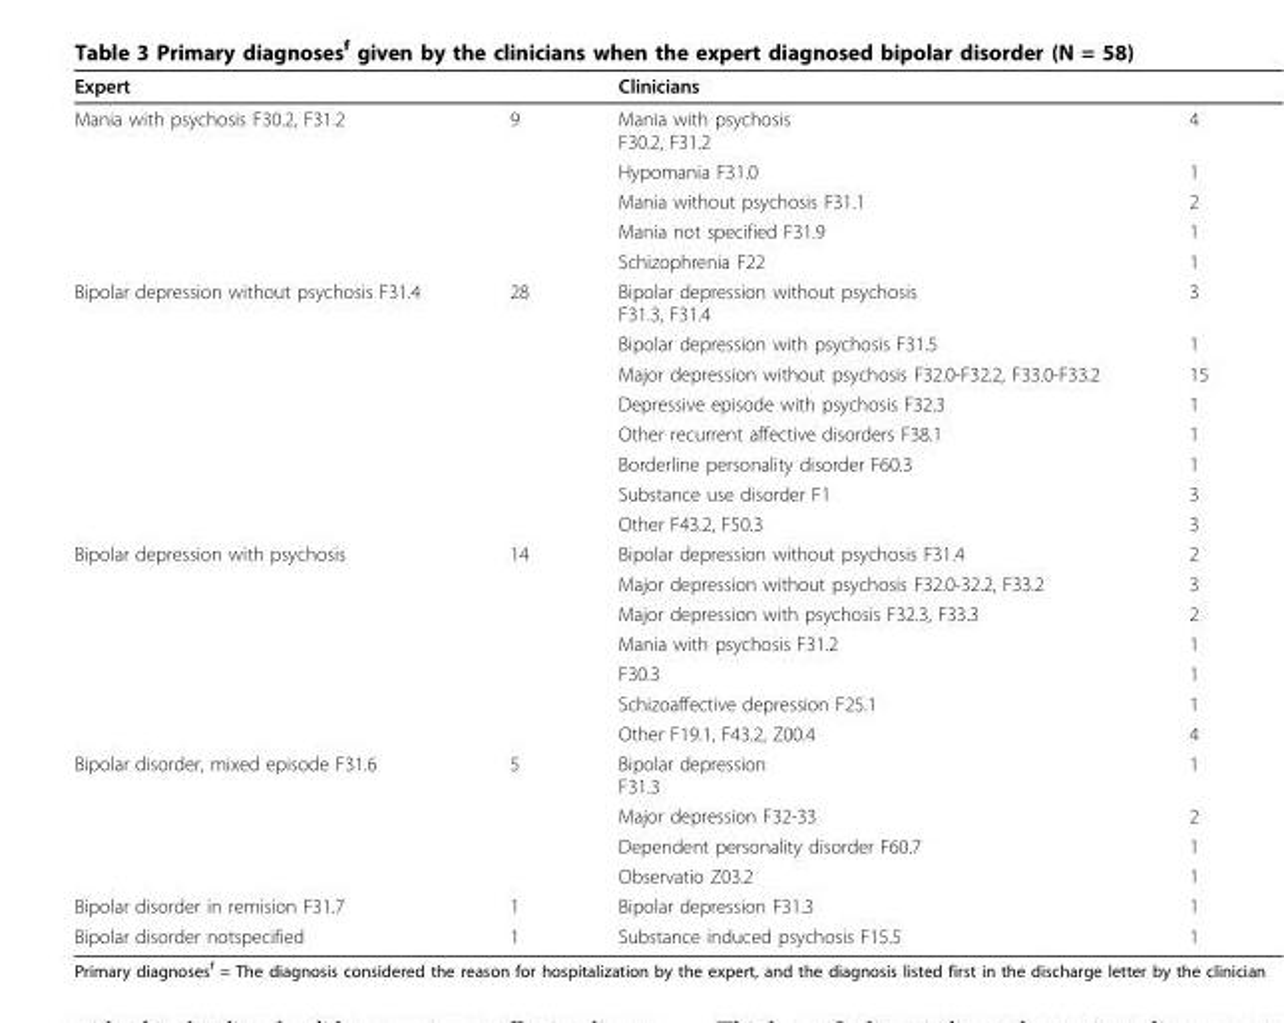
<table><thead><tr><td colspan="2">Expert</td><td colspan="2">Clinicians</td></tr><tr><td>Mania with psychosis F30.2, F31.2</td><td>9</td><td>Mania with psychosis F30.2, F31.2</td><td>4</td></tr></thead><tbody><tr><td></td><td></td><td>Hypomania F31.0</td><td>1</td></tr><tr><td></td><td></td><td>Mania without psychosis F31.1</td><td>2</td></tr><tr><td></td><td></td><td>Mania not specified F31.9</td><td>1</td></tr><tr><td></td><td></td><td>Schizophrenia F22</td><td>1</td></tr><tr><td rowspan="8">Bipolar depression without psychosis F31.4</td><td>28</td><td>Bipolar depression without psychosis F31.3, F31.4</td><td>3</td></tr><tr><td></td><td>Bipolar depression with psychosis F31.5</td><td>1</td></tr><tr><td></td><td>Major depression without psychosis F32.0-F32.2, F33.0-F33.2</td><td>15</td></tr><tr><td></td><td>Depressive episode with psychosis F32.3</td><td>1</td></tr><tr><td></td><td>Other recurrent affective disorders F38.1</td><td>1</td></tr><tr><td></td><td>Borderline personality disorder F60.3</td><td>1</td></tr><tr><td></td><td>Substance use disorder F1</td><td>3</td></tr><tr><td></td><td>Other F43.2, F50.3</td><td>3</td></tr><tr><td rowspan="7">Bipolar depression with psychosis</td><td>14</td><td>Bipolar depression without psychosis F31.4</td><td>2</td></tr><tr><td></td><td>Major depression without psychosis F32.0-32.2, F33.2</td><td>3</td></tr><tr><td></td><td>Major depression with psychosis F32.3, F33.3</td><td>2</td></tr><tr><td></td><td>Mania with psychosis F31.2</td><td>1</td></tr><tr><td></td><td>F30.3</td><td>1</td></tr><tr><td></td><td>Schizoaffective depression F25.1</td><td>1</td></tr><tr><td></td><td>Other F19.1, F43.2, Z00.4</td><td>4</td></tr><tr><td rowspan="4">Bipolar disorder, mixed episode F31.6</td><td>5</td><td>Bipolar depression F31.3</td><td>1</td></tr><tr><td></td><td>Major depression F32-33</td><td>2</td></tr><tr><td></td><td>Dependent personality disorder F60.7</td><td>1</td></tr><tr><td></td><td>Observatio Z03.2</td><td>1</td></tr><tr><td>Bipolar disorder in remision F31.7</td><td>1</td><td>Bipolar depression F31.3</td><td>1</td></tr><tr><td>Bipolar disorder notspecified</td><td>1</td><td>Substance induced psychosis F15.5</td><td>1</td></tr></tbody></table>